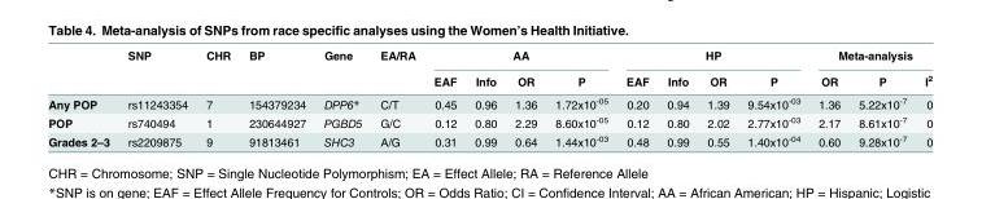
<table><thead><tr><td rowspan="2"></td><td rowspan="2">SNP</td><td rowspan="2">CHR</td><td rowspan="2">BP</td><td rowspan="2">Gene</td><td rowspan="2">EA/RA</td><td colspan="4">AA</td><td colspan="4">HP</td><td colspan="3">Meta-analysis</td></tr><tr><td>EAF</td><td>Info</td><td>OR</td><td>P</td><td>EAF</td><td>Info</td><td>OR</td><td>P</td><td>OR</td><td>P</td><td>I<sup>2</sup></td></tr></thead><tbody><tr><td>Any POP</td><td>rs11243354</td><td>7</td><td>154379234</td><td>DPP6*</td><td>C/T</td><td>0.45</td><td>0.96</td><td>1.36</td><td>1.72x10<sup>-05</sup></td><td>0.20</td><td>0.94</td><td>1.39</td><td>9.54x10<sup>-03</sup></td><td>1.36</td><td>5.22x10<sup>-7</sup></td><td>0</td></tr><tr><td>POP</td><td>rs740494</td><td>1</td><td>230644927</td><td>PGBD5</td><td>G/C</td><td>0.12</td><td>0.80</td><td>2.29</td><td>8.60x10<sup>-05</sup></td><td>0.12</td><td>0.80</td><td>2.02</td><td>2.77x10<sup>-03</sup></td><td>2.17</td><td>8.61x10<sup>-7</sup></td><td>0</td></tr><tr><td>Grades 2–3</td><td>rs2209875</td><td>9</td><td>91813461</td><td>SHC3</td><td>A/G</td><td>0.31</td><td>0.99</td><td>0.64</td><td>1.44x10<sup>-03</sup></td><td>0.48</td><td>0.99</td><td>0.55</td><td>1.40x10<sup>-04</sup></td><td>0.60</td><td>9.28x10<sup>-7</sup></td><td>0</td></tr></tbody></table>